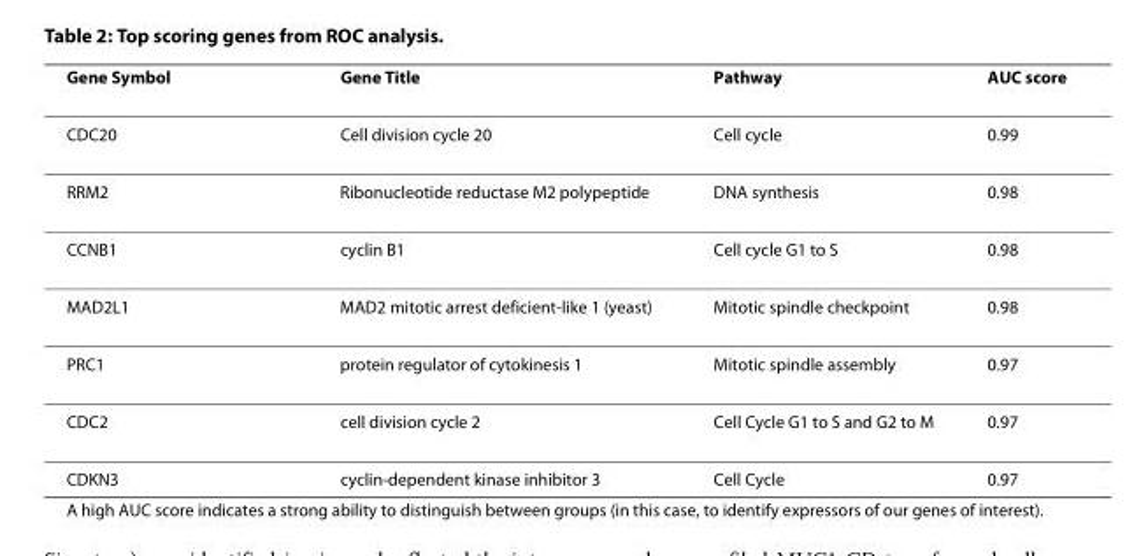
<table><thead><tr><td>Gene Symbol</td><td>Gene Title</td><td>Pathway</td><td>AUC score</td></tr></thead><tbody><tr><td>CDC20</td><td>Cell division cycle 20</td><td>Cell cycle</td><td>0.99</td></tr><tr><td>RRM2</td><td>Ribonucleotide reductase M2 polypeptide</td><td>DNA synthesis</td><td>0.98</td></tr><tr><td>CCNB1</td><td>cyclin B1</td><td>Cell cycle G1 to S</td><td>0.98</td></tr><tr><td>MAD2L1</td><td>MAD2 mitotic arrest deficient-like 1 (yeast)</td><td>Mitotic spindle checkpoint</td><td>0.98</td></tr><tr><td>PRC1</td><td>protein regulator of cytokinesis 1</td><td>Mitotic spindle assembly</td><td>0.97</td></tr><tr><td>CDC2</td><td>cell division cycle 2</td><td>Cell Cycle G1 to S and G2 to M</td><td>0.97</td></tr><tr><td>CDKN3</td><td>cyclin-dependent kinase inhibitor 3</td><td>Cell Cycle</td><td>0.97</td></tr></tbody></table>